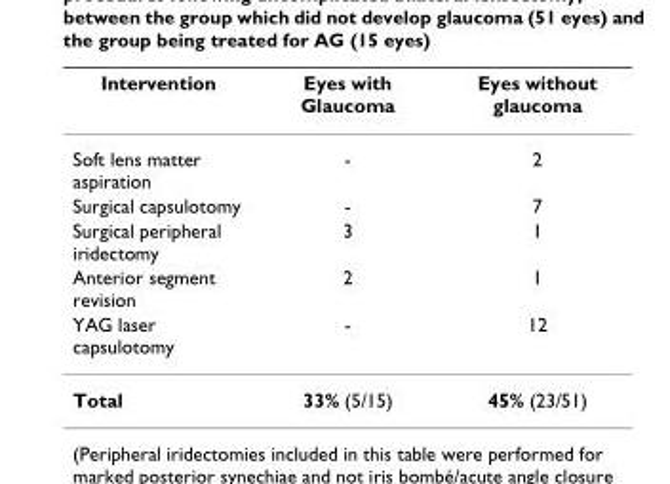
<table><thead><tr><td>Intervention</td><td>Eyes with Glaucoma</td><td>Eyes without glaucoma</td></tr></thead><tbody><tr><td>Soft lens matter aspiration</td><td>-</td><td>2</td></tr><tr><td>Surgical capsulotomy</td><td>-</td><td>7</td></tr><tr><td>Surgical peripheral iridectomy</td><td>3</td><td>1</td></tr><tr><td>Anterior segment revision</td><td>2</td><td>1</td></tr><tr><td>YAG laser capsulotomy</td><td>-</td><td>12</td></tr><tr><td>Total</td><td>33% (5/15)</td><td>45% (23/51)</td></tr></tbody></table>